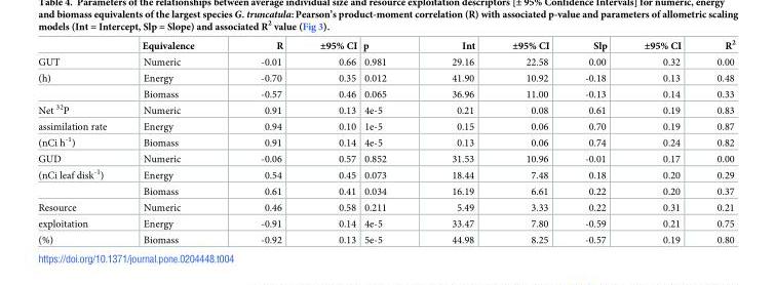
<table><thead><tr><td></td><td>Equivalence</td><td>R</td><td>±95% CI</td><td>p</td><td>Int</td><td>±95% CI</td><td>Slp</td><td>±95% CI</td><td>R<sup>2</sup></td></tr></thead><tbody><tr><td>GUT</td><td>Numeric</td><td>-0.01</td><td>0.66</td><td>0.981</td><td>29.16</td><td>22.58</td><td>0.00</td><td>0.32</td><td>0.00</td></tr><tr><td rowspan="2">(h)</td><td>Energy</td><td>-0.70</td><td>0.35</td><td>0.012</td><td>41.90</td><td>10.92</td><td>-0.18</td><td>0.13</td><td>0.48</td></tr><tr><td>Biomass</td><td>-0.57</td><td>0.46</td><td>0.065</td><td>36.96</td><td>11.00</td><td>-0.13</td><td>0.14</td><td>0.33</td></tr><tr><td>Net <sup>32</sup>P</td><td>Numeric</td><td>0.91</td><td>0.13</td><td>4e-5</td><td>0.21</td><td>0.08</td><td>0.61</td><td>0.19</td><td>0.83</td></tr><tr><td>assimilation rate</td><td>Energy</td><td>0.94</td><td>0.10</td><td>1e-5</td><td>0.15</td><td>0.06</td><td>0.70</td><td>0.19</td><td>0.87</td></tr><tr><td>(nCi h<sup>-1</sup>)</td><td>Biomass</td><td>0.91</td><td>0.14</td><td>4e-5</td><td>0.13</td><td>0.06</td><td>0.74</td><td>0.24</td><td>0.82</td></tr><tr><td>GUD</td><td>Numeric</td><td>-0.06</td><td>0.57</td><td>0.852</td><td>31.53</td><td>10.96</td><td>-0.01</td><td>0.17</td><td>0.00</td></tr><tr><td rowspan="2">(nCi leaf disk<sup>-1</sup>)</td><td>Energy</td><td>0.54</td><td>0.45</td><td>0.073</td><td>18.44</td><td>7.48</td><td>0.18</td><td>0.20</td><td>0.29</td></tr><tr><td>Biomass</td><td>0.61</td><td>0.41</td><td>0.034</td><td>16.19</td><td>6.61</td><td>0.22</td><td>0.20</td><td>0.37</td></tr><tr><td>Resource</td><td>Numeric</td><td>0.46</td><td>0.58</td><td>0.211</td><td>5.49</td><td>3.33</td><td>0.22</td><td>0.31</td><td>0.21</td></tr><tr><td>exploitation</td><td>Energy</td><td>-0.91</td><td>0.14</td><td>4e-5</td><td>33.47</td><td>7.80</td><td>-0.59</td><td>0.21</td><td>0.75</td></tr><tr><td>(%)</td><td>Biomass</td><td>-0.92</td><td>0.13</td><td>5e-5</td><td>44.98</td><td>8.25</td><td>-0.57</td><td>0.19</td><td>0.80</td></tr></tbody></table>